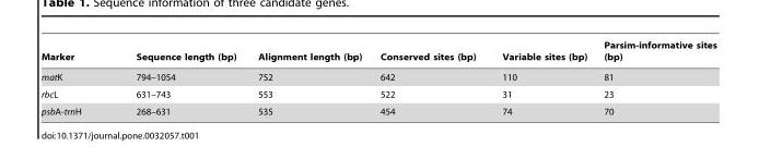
<table><thead><tr><td>Marker</td><td>Sequence length (bp)</td><td>Alignment length (bp)</td><td>Conserved sites (bp)</td><td>Variable sites (bp)</td><td>Parsim-informative sites (bp)</td></tr></thead><tbody><tr><td>matK</td><td>794–1054</td><td>752</td><td>642</td><td>110</td><td>81</td></tr><tr><td>rbcL</td><td>631–743</td><td>553</td><td>522</td><td>31</td><td>23</td></tr><tr><td>psbA-trnH</td><td>268–631</td><td>535</td><td>454</td><td>74</td><td>70</td></tr></tbody></table>